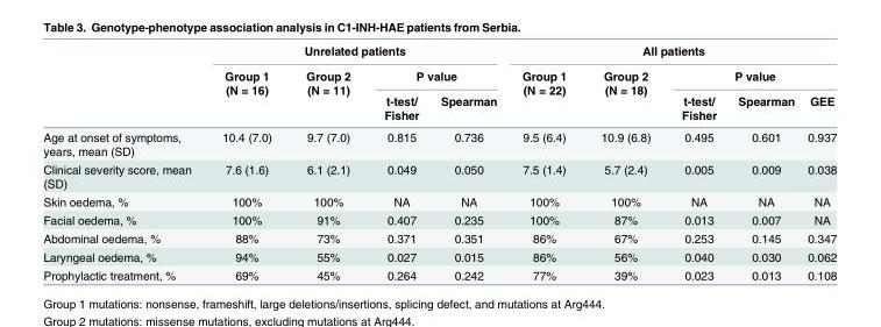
<table><thead><tr><td rowspan="3"></td><td colspan="4">Unrelated patients</td><td colspan="5">All patients</td></tr><tr><td rowspan="2">Group 1 (N = 16)</td><td rowspan="2">Group 2 (N = 11)</td><td colspan="2">P value</td><td rowspan="2">Group 1 (N = 22)</td><td rowspan="2">Group 2 (N = 18)</td><td colspan="3">P value</td></tr><tr><td>t-test/ Fisher</td><td>Spearman</td><td>t-test/ Fisher</td><td>Spearman</td><td>GEE</td></tr></thead><tbody><tr><td>Age at onset of symptoms, years, mean (SD)</td><td>10.4 (7.0)</td><td>9.7 (7.0)</td><td>0.815</td><td>0.736</td><td>9.5 (6.4)</td><td>10.9 (6.8)</td><td>0.495</td><td>0.601</td><td>0.937</td></tr><tr><td>Clinical severity score, mean (SD)</td><td>7.6 (1.6)</td><td>6.1 (2.1)</td><td>0.049</td><td>0.050</td><td>7.5 (1.4)</td><td>5.7 (2.4)</td><td>0.005</td><td>0.009</td><td>0.038</td></tr><tr><td>Skin oedema, %</td><td>100%</td><td>100%</td><td>NA</td><td>NA</td><td>100%</td><td>100%</td><td>NA</td><td>NA</td><td>NA</td></tr><tr><td>Facial oedema, %</td><td>100%</td><td>91%</td><td>0.407</td><td>0.235</td><td>100%</td><td>87%</td><td>0.013</td><td>0.007</td><td>NA</td></tr><tr><td>Abdominal oedema, %</td><td>88%</td><td>73%</td><td>0.371</td><td>0.351</td><td>86%</td><td>67%</td><td>0.253</td><td>0.145</td><td>0.347</td></tr><tr><td>Laryngeal oedema, %</td><td>94%</td><td>55%</td><td>0.027</td><td>0.015</td><td>86%</td><td>56%</td><td>0.040</td><td>0.030</td><td>0.062</td></tr><tr><td>Prophylactic treatment, %</td><td>69%</td><td>45%</td><td>0.264</td><td>0.242</td><td>77%</td><td>39%</td><td>0.023</td><td>0.013</td><td>0.108</td></tr></tbody></table>